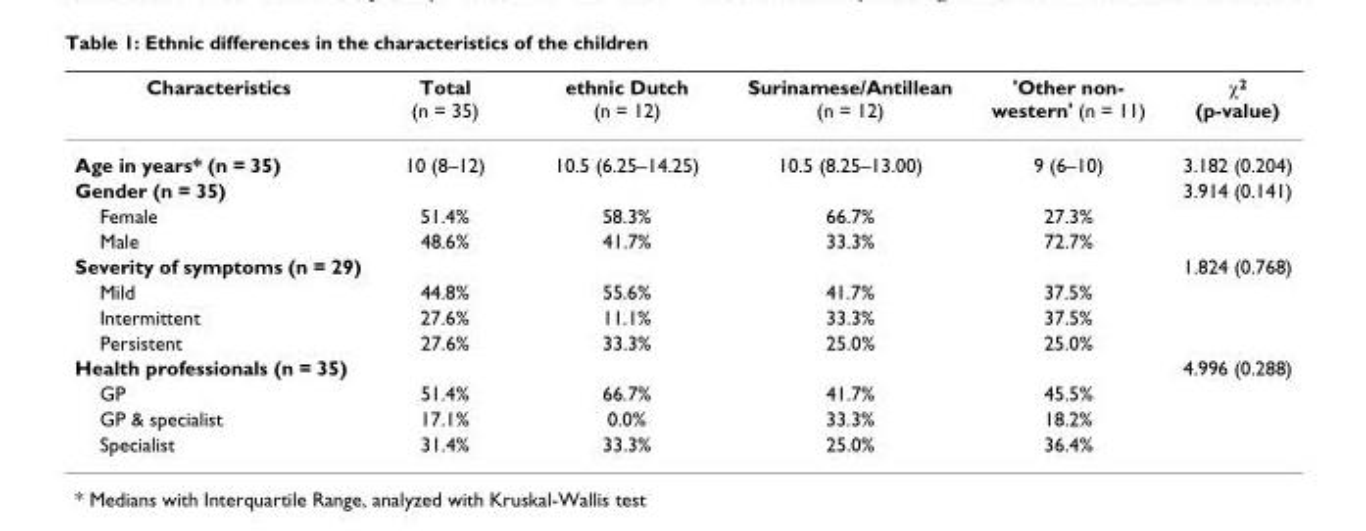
<table><thead><tr><td>Characteristics</td><td>Total (n = 35)</td><td>ethnic Dutch (n = 12)</td><td>Surinamese/Antillean (n = 12)</td><td>&#x27;Other non- western&#x27; (n = 11)</td><td>χ<sup>2</sup> (p-value)</td></tr></thead><tbody><tr><td>Age in years* (n = 35)</td><td>10 (8–12)</td><td>10.5 (6.25–14.25)</td><td>10.5 (8.25–13.00)</td><td>9 (6–10)</td><td>3.182 (0.204)</td></tr><tr><td>Gender (n = 35)</td><td></td><td></td><td></td><td></td><td>3.914 (0.141)</td></tr><tr><td>Female</td><td>51.4%</td><td>58.3%</td><td>66.7%</td><td>27.3%</td><td></td></tr><tr><td>Male</td><td>48.6%</td><td>41.7%</td><td>33.3%</td><td>72.7%</td><td></td></tr><tr><td>Severity of symptoms (n = 29)</td><td></td><td></td><td></td><td></td><td>1.824 (0.768)</td></tr><tr><td>Mild</td><td>44.8%</td><td>55.6%</td><td>41.7%</td><td>37.5%</td><td></td></tr><tr><td>Intermittent</td><td>27.6%</td><td>11.1%</td><td>33.3%</td><td>37.5%</td><td></td></tr><tr><td>Persistent</td><td>27.6%</td><td>33.3%</td><td>25.0%</td><td>25.0%</td><td></td></tr><tr><td>Health professionals (n = 35)</td><td></td><td></td><td></td><td></td><td>4.996 (0.288)</td></tr><tr><td>GP</td><td>51.4%</td><td>66.7%</td><td>41.7%</td><td>45.5%</td><td></td></tr><tr><td>GP &amp; specialist</td><td>17.1%</td><td>0.0%</td><td>33.3%</td><td>18.2%</td><td></td></tr><tr><td>Specialist</td><td>31.4%</td><td>33.3%</td><td>25.0%</td><td>36.4%</td><td></td></tr></tbody></table>